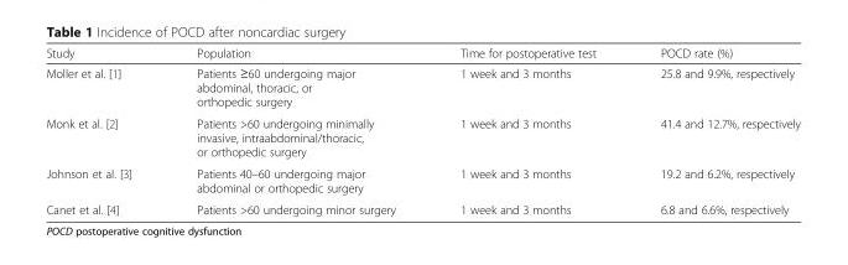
<table><thead><tr><td>Study</td><td>Population</td><td>Time for postoperative test</td><td>POCD rate (%)</td></tr></thead><tbody><tr><td>Moller et al. [1]</td><td>Patients ≥60 undergoing major abdominal, thoracic, or orthopedic surgery</td><td>1 week and 3 months</td><td>25.8 and 9.9%, respectively</td></tr><tr><td>Monk et al. [2]</td><td>Patients &gt;60 undergoing minimally invasive, intraabdominal/thoracic, or orthopedic surgery</td><td>1 week and 3 months</td><td>41.4 and 12.7%, respectively</td></tr><tr><td>Johnson et al. [3]</td><td>Patients 40–60 undergoing major abdominal or orthopedic surgery</td><td>1 week and 3 months</td><td>19.2 and 6.2%, respectively</td></tr><tr><td>Canet et al. [4]</td><td>Patients &gt;60 undergoing minor surgery</td><td>1 week and 3 months</td><td>6.8 and 6.6%, respectively</td></tr></tbody></table>